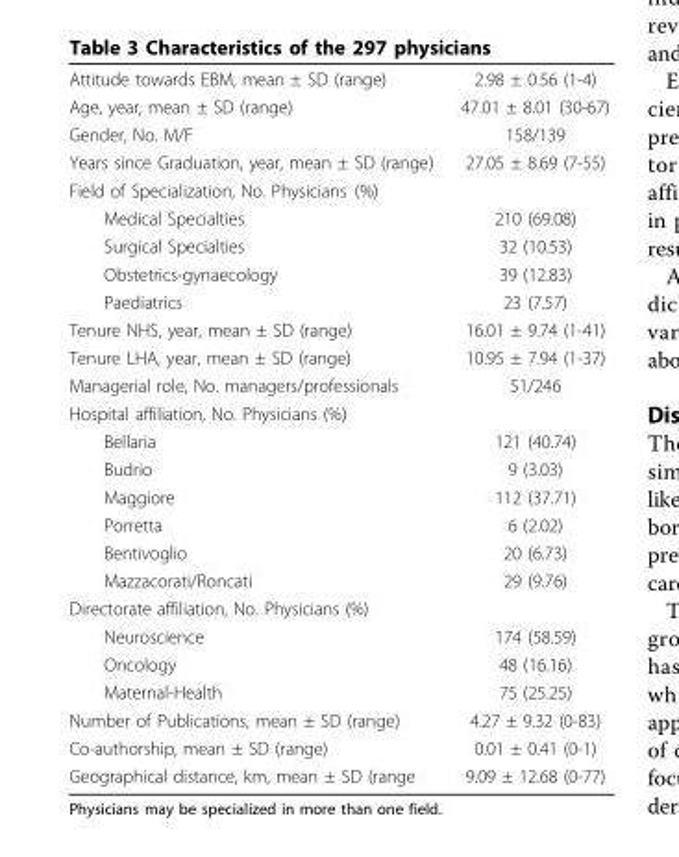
<table><tbody><tr><td>Attitude towards EBM, mean ± SD (range)</td><td>2.98 ± 0.56 (1-4)</td></tr><tr><td>Age, year, mean ± SD (range)</td><td>47.01 ± 8.01 (30-67)</td></tr><tr><td>Gender, No. M/F</td><td>158/139</td></tr><tr><td>Years since Graduation, year, mean ± SD (range)</td><td>27.05 ± 8.69 (7-55)</td></tr><tr><td colspan="2">Field of Specialization, No. Physicians<sup>·</sup> (%)</td></tr><tr><td>Medical Specialties</td><td>210 (69.08)</td></tr><tr><td>Surgical Specialties</td><td>32 (10.53)</td></tr><tr><td>Obstetrics-gynaecology</td><td>39 (12.83)</td></tr><tr><td>Paediatrics</td><td>23 (7.57)</td></tr><tr><td>Tenure NHS, year, mean ± SD (range)</td><td>16.01 ± 9.74 (1-41)</td></tr><tr><td>Tenure LHA, year, mean ± SD (range)</td><td>10.95 ± 7.94 (1-37)</td></tr><tr><td>Managerial role, No. managers/professionals</td><td>51/246</td></tr><tr><td colspan="2">Hospital affiliation, No. Physicians (%)</td></tr><tr><td>Bellaria</td><td>121 (40.74)</td></tr><tr><td>Budrio</td><td>9 (3.03)</td></tr><tr><td>Maggiore</td><td>112 (37.71)</td></tr><tr><td>Porretta</td><td>6 (2.02)</td></tr><tr><td>Bentivoglio</td><td>20 (6.73)</td></tr><tr><td>Mazzacorati/Roncati</td><td>29 (9.76)</td></tr><tr><td colspan="2">Directorate affiliation, No. Physicians (%)</td></tr><tr><td>Neuroscience</td><td>174 (58.59)</td></tr><tr><td>Oncology</td><td>48 (16.16)</td></tr><tr><td>Maternal-Health</td><td>75 (25.25)</td></tr><tr><td>Number of Publications, mean ± SD (range)</td><td>4.27 ± 9.32 (0-83)</td></tr><tr><td>Co-authorship, mean ± SD (range)</td><td>0.01 ± 0.41 (0-1)</td></tr><tr><td>Geographical distance, km, mean ± SD (range</td><td>9.09 ± 12.68 (0-77)</td></tr></tbody></table>